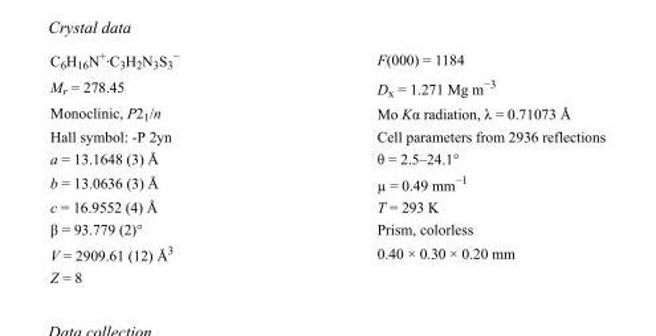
<table><tbody><tr><td>C<sub>6</sub>H<sub>16</sub>N<sup>+</sup>·C<sub>3</sub>H<sub>2</sub>N<sub>3</sub>S<sub>3</sub> <sup>−</sup></td><td>F(000) = 1184</td></tr><tr><td>M<sub>r</sub> = 278.45</td><td>D<sub>x</sub> = 1.271 Mg m<sup>−3</sup></td></tr><tr><td>Monoclinic, P2<sub>1</sub>/n</td><td>Mo Kα radiation, λ = 0.71073 Å</td></tr><tr><td>Hall symbol: -P 2yn</td><td>Cell parameters from 2936 reflections</td></tr><tr><td>a = 13.1648 (3) Å</td><td>θ = 2.5–24.1°</td></tr><tr><td>b = 13.0636 (3) Å</td><td>µ = 0.49 mm<sup>−1</sup></td></tr><tr><td>c = 16.9552 (4) Å</td><td>T = 293 K</td></tr><tr><td>β = 93.779 (2)°</td><td>Prism, colorless</td></tr><tr><td>V = 2909.61 (12) Å<sup>3</sup></td><td>0.40 × 0.30 × 0.20 mm</td></tr><tr><td>Z = 8</td><td></td></tr></tbody></table>